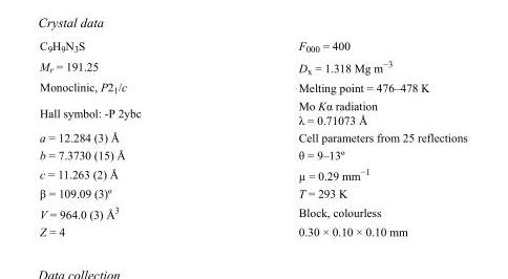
<table><tbody><tr><td>C<sub>9</sub>H<sub>9</sub>N<sub>3</sub>S</td><td>F000 = 400</td></tr><tr><td>M<sub>r</sub> = 191.25</td><td>D<sub>x</sub> = 1.318 Mg m<sup>−3</sup></td></tr><tr><td>Monoclinic, P2<sub>1</sub>/c</td><td>Melting point = 476–478 K</td></tr><tr><td>Hall symbol: -P 2ybc</td><td>Mo Kα radiation λ = 0.71073 Å</td></tr><tr><td>a = 12.284 (3) Å</td><td>Cell parameters from 25 reflections</td></tr><tr><td>b = 7.3730 (15) Å</td><td>θ = 9–13º</td></tr><tr><td>c = 11.263 (2) Å</td><td>µ = 0.29 mm<sup>−1</sup></td></tr><tr><td>β = 109.09 (3)º</td><td>T = 293 K</td></tr><tr><td>V = 964.0 (3) Å<sup>3</sup></td><td>Block, colourless</td></tr><tr><td>Z = 4</td><td>0.30 × 0.10 × 0.10 mm</td></tr></tbody></table>